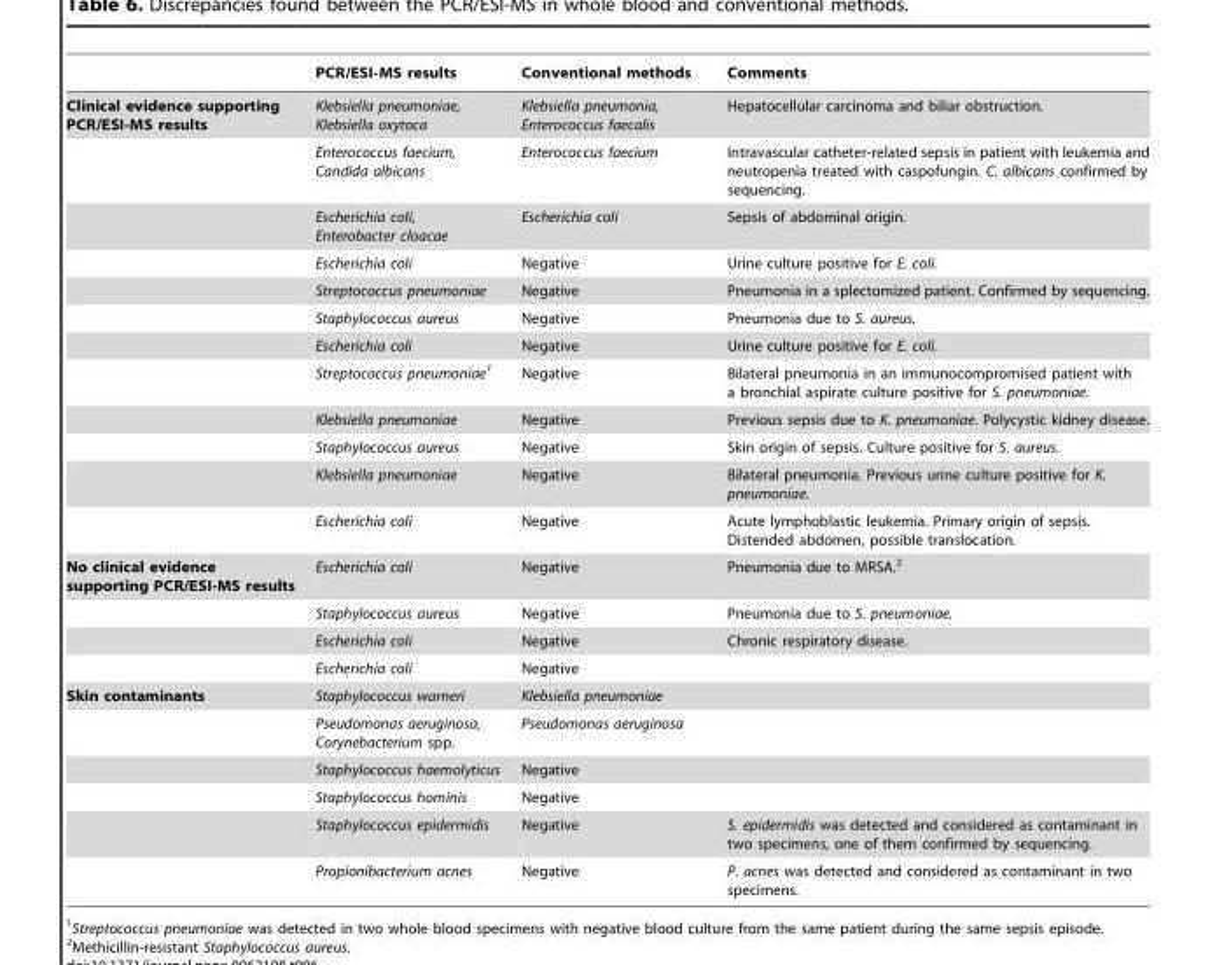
<table><thead><tr><td></td><td>PCR/ESI-MS results</td><td>Conventional methods</td><td>Comments</td></tr></thead><tbody><tr><td rowspan="12">Clinical evidence supporting PCR/ESI-MS results</td><td>Klebsiella pneumoniae, Klebsiella oxytoca</td><td>Klebsiella pneumonia, Enterococcus faecalis</td><td>Hepatocellular carcinoma and biliar obstruction.</td></tr><tr><td>Enterococcus faecium, Candida albicans</td><td>Enterococcus faecium</td><td>Intravascular catheter-related sepsis in patient with leukemia and neutropenia treated with caspofungin. C. albicans confirmed by sequencing.</td></tr><tr><td>Escherichia coli, Enterobacter cloacae</td><td>Escherichia coli</td><td>Sepsis of abdominal origin.</td></tr><tr><td>Escherichia coli</td><td>Negative</td><td>Urine culture positive for E. coli.</td></tr><tr><td>Streptococcus pneumoniae</td><td>Negative</td><td>Pneumonia in a splectomized patient. Confirmed by sequencing.</td></tr><tr><td>Staphylococcus aureus</td><td>Negative</td><td>Pneumonia due to S. aureus.</td></tr><tr><td>Escherichia coli</td><td>Negative</td><td>Urine culture positive for E. coli.</td></tr><tr><td>Streptococcus pneumoniae1</td><td>Negative</td><td>Bilateral pneumonia in an immunocompromised patient with a bronchial aspirate culture positive for S. pneumoniae.</td></tr><tr><td>Klebsiella pneumoniae</td><td>Negative</td><td>Previous sepsis due to K. pneumoniae. Polycystic kidney disease.</td></tr><tr><td>Staphylococcus aureus</td><td>Negative</td><td>Skin origin of sepsis. Culture positive for S. aureus.</td></tr><tr><td>Klebsiella pneumoniae</td><td>Negative</td><td>Bilateral pneumonia. Previous urine culture positive for K. pneumoniae.</td></tr><tr><td>Escherichia coli</td><td>Negative</td><td>Acute lymphoblastic leukemia. Primary origin of sepsis. Distended abdomen, possible translocation.</td></tr><tr><td rowspan="4">No clinical evidence supporting PCR/ESI-MS results</td><td>Escherichia coli</td><td>Negative</td><td>Pneumonia due to MRSA.<sup>2</sup></td></tr><tr><td>Staphylococcus aureus</td><td>Negative</td><td>Pneumonia due to S. pneumoniae.</td></tr><tr><td>Escherichia coli</td><td>Negative</td><td>Chronic respiratory disease.</td></tr><tr><td>Escherichia coli</td><td>Negative</td><td></td></tr><tr><td rowspan="6">Skin contaminants</td><td>Staphylococcus warneri</td><td>Klebsiella pneumoniae</td><td></td></tr><tr><td>Pseudomonas aeruginosa, Corynebacterium spp.</td><td>Pseudomonas aeruginosa</td><td></td></tr><tr><td>Staphylococcus haemolyticus</td><td>Negative</td><td></td></tr><tr><td>Staphylococcus hominis</td><td>Negative</td><td></td></tr><tr><td>Staphylococcus epidermidis</td><td>Negative</td><td>S. epidermidis was detected and considered as contaminant in two specimens, one of them confirmed by sequencing.</td></tr><tr><td>Propionibacterium acnes</td><td>Negative</td><td>P. acnes was detected and considered as contaminant in two specimens.</td></tr></tbody></table>